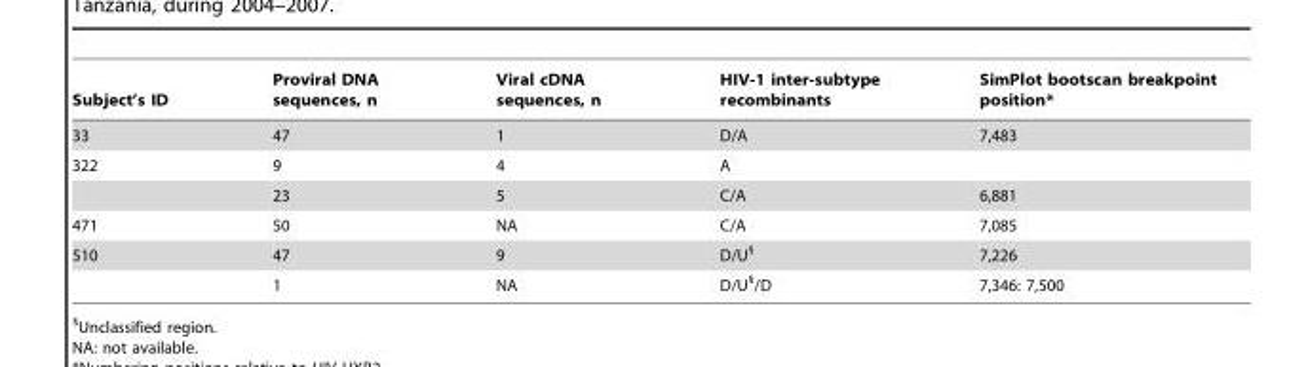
<table><thead><tr><td>Subject’s ID</td><td>Proviral DNA sequences, n</td><td>Viral cDNA sequences, n</td><td>HIV-1 inter-subtype recombinants</td><td>SimPlot bootscan breakpoint position*</td></tr></thead><tbody><tr><td>33</td><td>47</td><td>1</td><td>D/A</td><td>7,483</td></tr><tr><td rowspan="2">322</td><td>9</td><td>4</td><td>A</td><td></td></tr><tr><td>23</td><td>5</td><td>C/A</td><td>6,881</td></tr><tr><td>471</td><td>50</td><td>NA</td><td>C/A</td><td>7,085</td></tr><tr><td rowspan="2">510</td><td>47</td><td>9</td><td>D/U§</td><td>7,226</td></tr><tr><td>1</td><td>NA</td><td>D/U§/D</td><td>7,346: 7,500</td></tr></tbody></table>